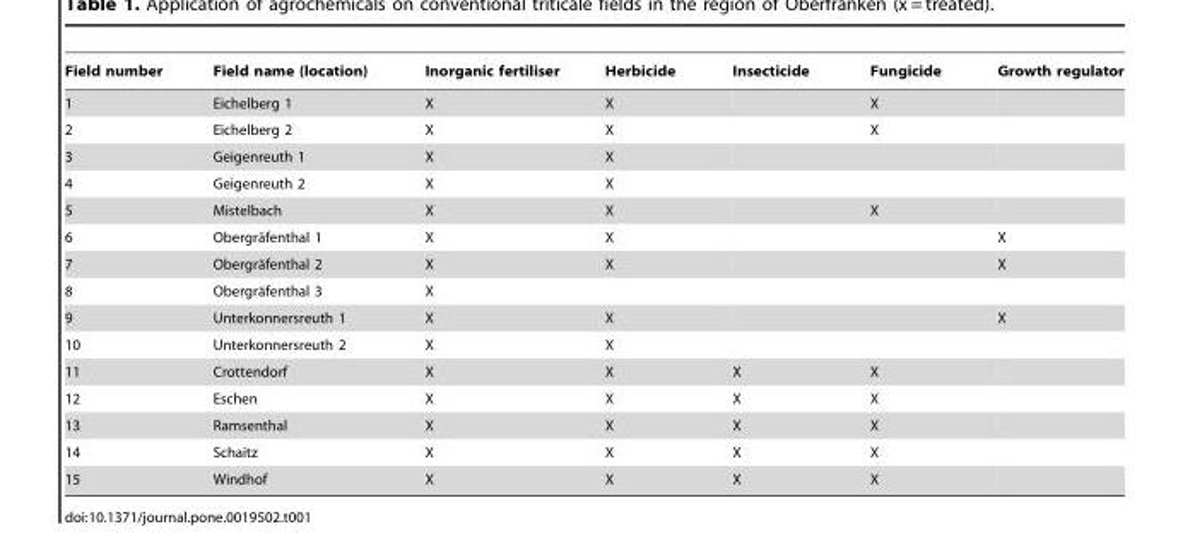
<table><thead><tr><td>Field number</td><td>Field name (location)</td><td>Inorganic fertiliser</td><td>Herbicide</td><td>Insecticide</td><td>Fungicide</td><td>Growth regulator</td></tr></thead><tbody><tr><td>1</td><td>Eichelberg 1</td><td>X</td><td>X</td><td></td><td>X</td><td></td></tr><tr><td>2</td><td>Eichelberg 2</td><td>X</td><td>X</td><td></td><td>X</td><td></td></tr><tr><td>3</td><td>Geigenreuth 1</td><td>X</td><td>X</td><td></td><td></td><td></td></tr><tr><td>4</td><td>Geigenreuth 2</td><td>X</td><td>X</td><td></td><td></td><td></td></tr><tr><td>5</td><td>Mistelbach</td><td>X</td><td>X</td><td></td><td>X</td><td></td></tr><tr><td>6</td><td>Obergra¨fenthal 1</td><td>X</td><td>X</td><td></td><td></td><td>X</td></tr><tr><td>7</td><td>Obergra¨fenthal 2</td><td>X</td><td>X</td><td></td><td></td><td>X</td></tr><tr><td>8</td><td>Obergra¨fenthal 3</td><td>X</td><td></td><td></td><td></td><td></td></tr><tr><td>9</td><td>Unterkonnersreuth 1</td><td>X</td><td>X</td><td></td><td></td><td>X</td></tr><tr><td>10</td><td>Unterkonnersreuth 2</td><td>X</td><td>X</td><td></td><td></td><td></td></tr><tr><td>11</td><td>Crottendorf</td><td>X</td><td>X</td><td>X</td><td>X</td><td></td></tr><tr><td>12</td><td>Eschen</td><td>X</td><td>X</td><td>X</td><td>X</td><td></td></tr><tr><td>13</td><td>Ramsenthal</td><td>X</td><td>X</td><td>X</td><td>X</td><td></td></tr><tr><td>14</td><td>Schaitz</td><td>X</td><td>X</td><td>X</td><td>X</td><td></td></tr><tr><td>15</td><td>Windhof</td><td>X</td><td>X</td><td>X</td><td>X</td><td></td></tr></tbody></table>